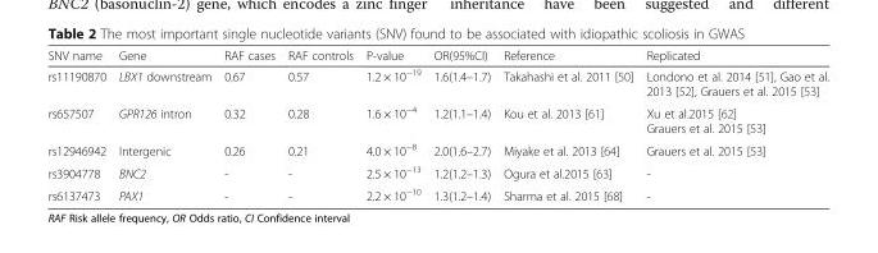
<table><thead><tr><td>SNV name</td><td>Gene</td><td>RAF cases</td><td>RAF controls</td><td>P-value</td><td>OR(95%CI)</td><td>Reference</td><td>Replicated</td></tr></thead><tbody><tr><td>rs11190870</td><td>LBX1 downstream</td><td>0.67</td><td>0.57</td><td>1.2 × 10<sup>−19</sup></td><td>1.6(1.4–1.7)</td><td>Takahashi et al. 2011 [50]</td><td>Londono et al. 2014 [51], Gao et al. 2013 [52], Grauers et al. 2015 [53]</td></tr><tr><td>rs657507</td><td>GPR126 intron</td><td>0.32</td><td>0.28</td><td>1.6 × 10<sup>−4</sup></td><td>1.2(1.1–1.4)</td><td>Kou et al. 2013 [61]</td><td>Xu et al.2015 [62] Grauers et al. 2015 [53]</td></tr><tr><td>rs12946942</td><td>Intergenic</td><td>0.26</td><td>0.21</td><td>4.0 × 10<sup>−8</sup></td><td>2.0(1.6–2.7)</td><td>Miyake et al. 2013 [64]</td><td>Grauers et al. 2015 [53]</td></tr><tr><td>rs3904778</td><td>BNC2</td><td>-</td><td>-</td><td>2.5 × 10<sup>−13</sup></td><td>1.2(1.2–1.3)</td><td>Ogura et al.2015 [63]</td><td>-</td></tr><tr><td>rs6137473</td><td>PAX1</td><td>-</td><td>-</td><td>2.2 × 10<sup>−10</sup></td><td>1.3(1.2–1.4)</td><td>Sharma et al. 2015 [68]</td><td>-</td></tr></tbody></table>